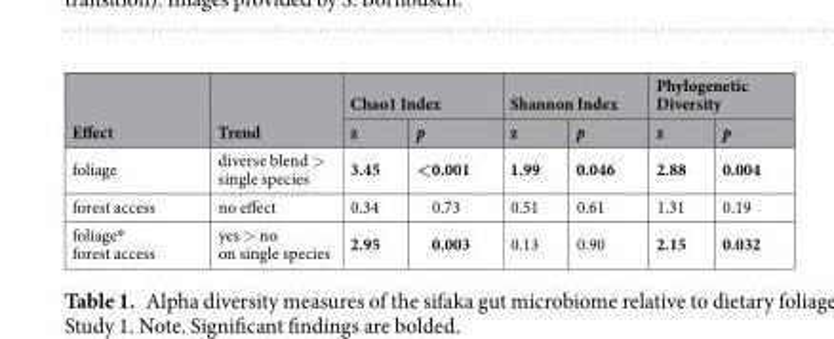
<table><thead><tr><td rowspan="2">Effect</td><td rowspan="2">Trend</td><td colspan="2">Chao1 Index</td><td colspan="2">Shannon Index</td><td colspan="2">Phylogenetic Diversity</td></tr><tr><td>z</td><td>p</td><td>z</td><td>p</td><td>z</td><td>p</td></tr></thead><tbody><tr><td>foliage</td><td>diverse blend &gt; single species</td><td>3.45</td><td>&lt;0.001</td><td>1.99</td><td>0.046</td><td>2.88</td><td>0.004</td></tr><tr><td>forest access</td><td>no effect</td><td>0.34</td><td>0.73</td><td>0.51</td><td>0.61</td><td>1.31</td><td>0.19</td></tr><tr><td>foliage* forest access</td><td>yes &gt; no on single species</td><td>2.95</td><td>0.003</td><td>0.13</td><td>0.90</td><td>2.15</td><td>0.032</td></tr></tbody></table>